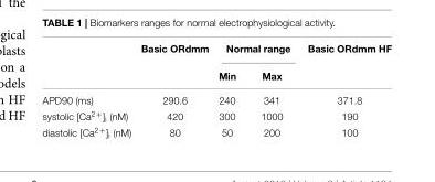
<table><thead><tr><td rowspan="2"></td><td rowspan="2">Basic ORdmm</td><td colspan="2">Normal range</td><td rowspan="2">Basic ORdmm HF</td></tr><tr><td>Min</td><td>Max</td></tr></thead><tbody><tr><td>APD90 (ms)</td><td>290.6</td><td>240</td><td>341</td><td>371.8</td></tr><tr><td>systolic [Ca<sup>2+</sup>]<sub>i</sub> (nM)</td><td>420</td><td>300</td><td>1000</td><td>190</td></tr><tr><td>diastolic [Ca<sup>2+</sup>]<sub>i</sub> (nM)</td><td>80</td><td>50</td><td>200</td><td>100</td></tr></tbody></table>